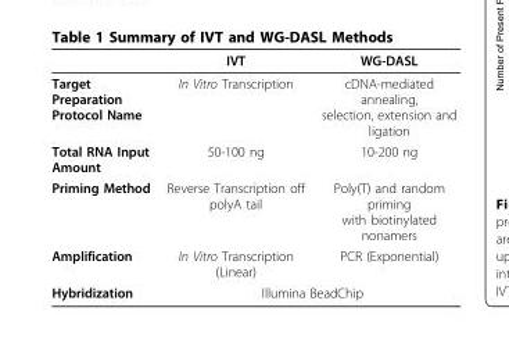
<table><thead><tr><td></td><td>IVT</td><td>WG-DASL</td></tr></thead><tbody><tr><td>Target Preparation Protocol Name</td><td>In Vitro Transcription</td><td>cDNA-mediated annealing, selection, extension and ligation</td></tr><tr><td>Total RNA Input Amount</td><td>50-100 ng</td><td>10-200 ng</td></tr><tr><td>Priming Method</td><td>Reverse Transcription off polyA tail</td><td>Poly(T) and random priming with biotinylated nonamers</td></tr><tr><td>Amplification</td><td>In Vitro Transcription (Linear)</td><td>PCR (Exponential)</td></tr><tr><td>Hybridization</td><td colspan="2">Illumina BeadChip</td></tr></tbody></table>